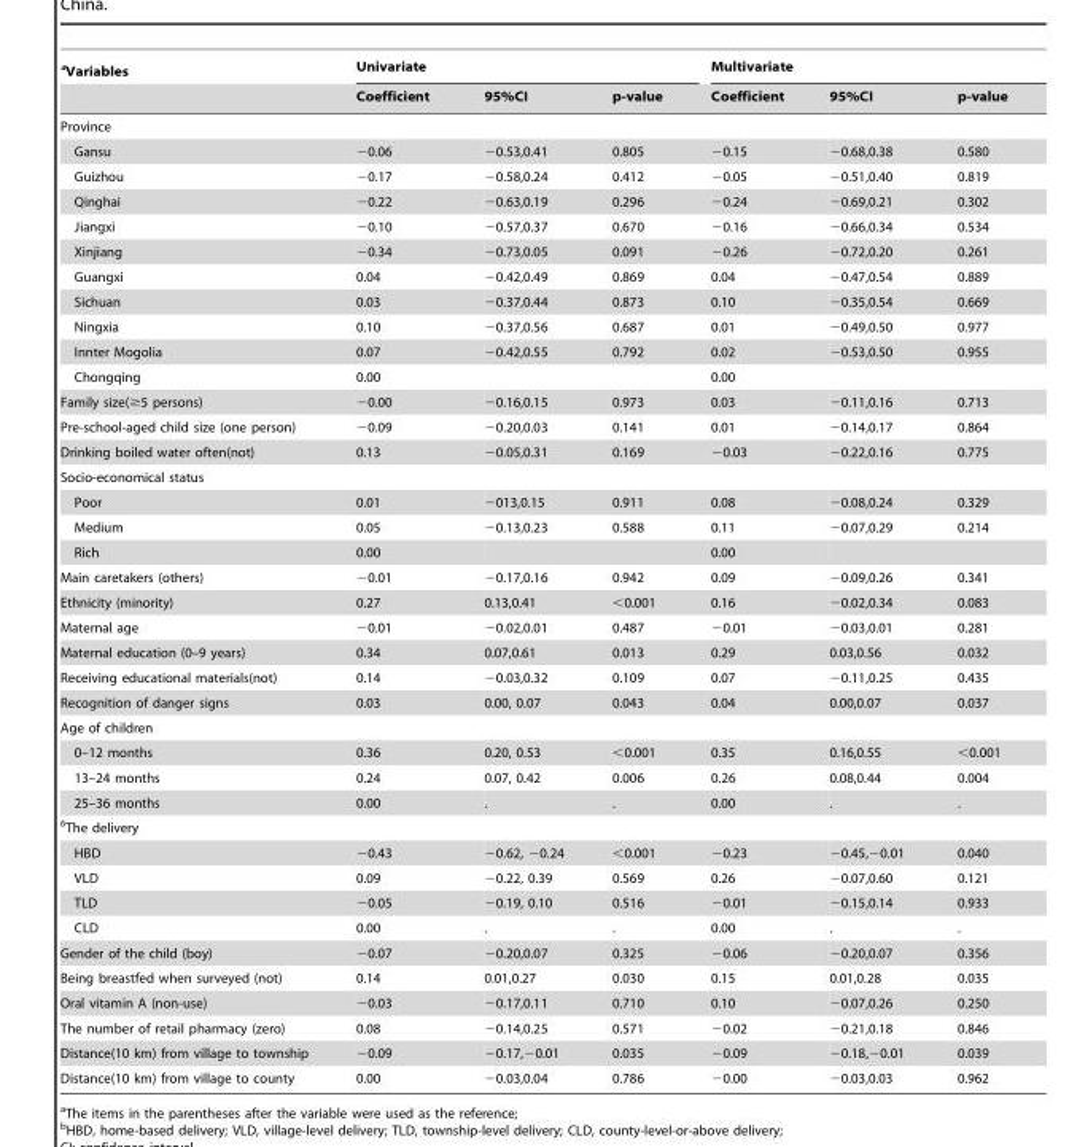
<table><thead><tr><td rowspan="2">aVariables</td><td colspan="3">Univariate</td><td colspan="3">Multivariate</td></tr><tr><td>Coefficient</td><td>95%CI</td><td>p-value</td><td>Coefficient</td><td>95%CI</td><td>p-value</td></tr></thead><tbody><tr><td colspan="7">Province</td></tr><tr><td>Gansu</td><td>−0.06</td><td>−0.53,0.41</td><td>0.805</td><td>−0.15</td><td>−0.68,0.38</td><td>0.580</td></tr><tr><td>Guizhou</td><td>−0.17</td><td>−0.58,0.24</td><td>0.412</td><td>−0.05</td><td>−0.51,0.40</td><td>0.819</td></tr><tr><td>Qinghai</td><td>−0.22</td><td>−0.63,0.19</td><td>0.296</td><td>−0.24</td><td>−0.69,0.21</td><td>0.302</td></tr><tr><td>Jiangxi</td><td>−0.10</td><td>−0.57,0.37</td><td>0.670</td><td>−0.16</td><td>−0.66,0.34</td><td>0.534</td></tr><tr><td>Xinjiang</td><td>−0.34</td><td>−0.73,0.05</td><td>0.091</td><td>−0.26</td><td>−0.72,0.20</td><td>0.261</td></tr><tr><td>Guangxi</td><td>0.04</td><td>−0.42,0.49</td><td>0.869</td><td>0.04</td><td>−0.47,0.54</td><td>0.889</td></tr><tr><td>Sichuan</td><td>0.03</td><td>−0.37,0.44</td><td>0.873</td><td>0.10</td><td>−0.35,0.54</td><td>0.669</td></tr><tr><td>Ningxia</td><td>0.10</td><td>−0.37,0.56</td><td>0.687</td><td>0.01</td><td>−0.49,0.50</td><td>0.977</td></tr><tr><td>Innter Mogolia</td><td>0.07</td><td>−0.42,0.55</td><td>0.792</td><td>0.02</td><td>−0.53,0.50</td><td>0.955</td></tr><tr><td>Chongqing</td><td>0.00</td><td></td><td></td><td>0.00</td><td></td><td></td></tr><tr><td>Family size(≥5 persons)</td><td>−0.00</td><td>−0.16,0.15</td><td>0.973</td><td>0.03</td><td>−0.11,0.16</td><td>0.713</td></tr><tr><td>Pre-school-aged child size (one person)</td><td>−0.09</td><td>−0.20,0.03</td><td>0.141</td><td>0.01</td><td>−0.14,0.17</td><td>0.864</td></tr><tr><td>Drinking boiled water often(not)</td><td>0.13</td><td>−0.05,0.31</td><td>0.169</td><td>−0.03</td><td>−0.22,0.16</td><td>0.775</td></tr><tr><td colspan="7">Socio-economical status</td></tr><tr><td>Poor</td><td>0.01</td><td>−013,0.15</td><td>0.911</td><td>0.08</td><td>−0.08,0.24</td><td>0.329</td></tr><tr><td>Medium</td><td>0.05</td><td>−0.13,0.23</td><td>0.588</td><td>0.11</td><td>−0.07,0.29</td><td>0.214</td></tr><tr><td>Rich</td><td>0.00</td><td></td><td></td><td>0.00</td><td></td><td></td></tr><tr><td>Main caretakers (others)</td><td>−0.01</td><td>−0.17,0.16</td><td>0.942</td><td>0.09</td><td>−0.09,0.26</td><td>0.341</td></tr><tr><td>Ethnicity (minority)</td><td>0.27</td><td>0.13,0.41</td><td>&lt;0.001</td><td>0.16</td><td>−0.02,0.34</td><td>0.083</td></tr><tr><td>Maternal age</td><td>−0.01</td><td>−0.02,0.01</td><td>0.487</td><td>−0.01</td><td>−0.03,0.01</td><td>0.281</td></tr><tr><td>Maternal education (0–9 years)</td><td>0.34</td><td>0.07,0.61</td><td>0.013</td><td>0.29</td><td>0.03,0.56</td><td>0.032</td></tr><tr><td>Receiving educational materials(not)</td><td>0.14</td><td>−0.03,0.32</td><td>0.109</td><td>0.07</td><td>−0.11,0.25</td><td>0.435</td></tr><tr><td>Recognition of danger signs</td><td>0.03</td><td>0.00, 0.07</td><td>0.043</td><td>0.04</td><td>0.00,0.07</td><td>0.037</td></tr><tr><td colspan="7">Age of children</td></tr><tr><td>0–12 months</td><td>0.36</td><td>0.20, 0.53</td><td>&lt;0.001</td><td>0.35</td><td>0.16,0.55</td><td>&lt;0.001</td></tr><tr><td>13–24 months</td><td>0.24</td><td>0.07, 0.42</td><td>0.006</td><td>0.26</td><td>0.08,0.44</td><td>0.004</td></tr><tr><td>25–36 months</td><td>0.00</td><td>.</td><td>.</td><td>0.00</td><td>.</td><td>.</td></tr><tr><td colspan="7">bThe delivery</td></tr><tr><td>HBD</td><td>−0.43</td><td>−0.62, −0.24</td><td>&lt;0.001</td><td>−0.23</td><td>−0.45,−0.01</td><td>0.040</td></tr><tr><td>VLD</td><td>0.09</td><td>−0.22, 0.39</td><td>0.569</td><td>0.26</td><td>−0.07,0.60</td><td>0.121</td></tr><tr><td>TLD</td><td>−0.05</td><td>−0.19, 0.10</td><td>0.516</td><td>−0.01</td><td>−0.15,0.14</td><td>0.933</td></tr><tr><td>CLD</td><td>0.00</td><td>.</td><td>.</td><td>0.00</td><td>.</td><td>.</td></tr><tr><td>Gender of the child (boy)</td><td>−0.07</td><td>−0.20,0.07</td><td>0.325</td><td>−0.06</td><td>−0.20,0.07</td><td>0.356</td></tr><tr><td>Being breastfed when surveyed (not)</td><td>0.14</td><td>0.01,0.27</td><td>0.030</td><td>0.15</td><td>0.01,0.28</td><td>0.035</td></tr><tr><td>Oral vitamin A (non-use)</td><td>−0.03</td><td>−0.17,0.11</td><td>0.710</td><td>0.10</td><td>−0.07,0.26</td><td>0.250</td></tr><tr><td>The number of retail pharmacy (zero)</td><td>0.08</td><td>−0.14,0.25</td><td>0.571</td><td>−0.02</td><td>−0.21,0.18</td><td>0.846</td></tr><tr><td>Distance(10 km) from village to township</td><td>−0.09</td><td>−0.17,−0.01</td><td>0.035</td><td>−0.09</td><td>−0.18,−0.01</td><td>0.039</td></tr><tr><td>Distance(10 km) from village to county</td><td>0.00</td><td>−0.03,0.04</td><td>0.786</td><td>−0.00</td><td>−0.03,0.03</td><td>0.962</td></tr></tbody></table>